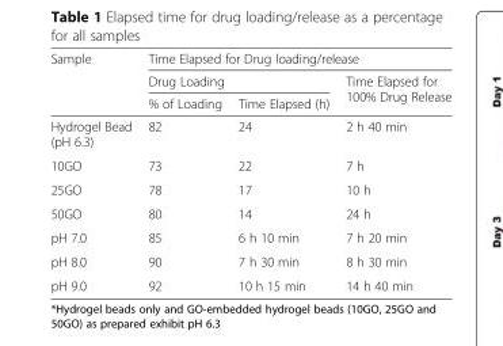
<table><thead><tr><td rowspan="3">Sample</td><td colspan="3">Time Elapsed for Drug loading/release</td></tr><tr><td colspan="2">Drug Loading</td><td rowspan="2">Time Elapsed for 100% Drug Release</td></tr><tr><td>% of Loading</td><td>Time Elapsed (h)</td></tr></thead><tbody><tr><td>Hydrogel Bead (pH 6.3)</td><td>82</td><td>24</td><td>2 h 40 min</td></tr><tr><td>10GO</td><td>73</td><td>22</td><td>7 h</td></tr><tr><td>25GO</td><td>78</td><td>17</td><td>10 h</td></tr><tr><td>50GO</td><td>80</td><td>14</td><td>24 h</td></tr><tr><td>pH 7.0</td><td>85</td><td>6 h 10 min</td><td>7 h 20 min</td></tr><tr><td>pH 8.0</td><td>90</td><td>7 h 30 min</td><td>8 h 30 min</td></tr><tr><td>pH 9.0</td><td>92</td><td>10 h 15 min</td><td>14 h 40 min</td></tr></tbody></table>